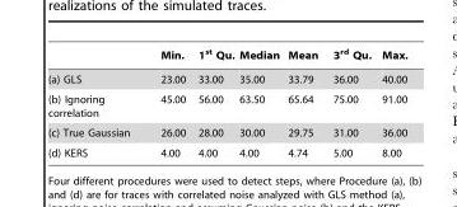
<table><thead><tr><td></td><td>Min.</td><td>1<sup>st</sup> Qu.</td><td>Median</td><td>Mean</td><td>3<sup>rd</sup> Qu.</td><td>Max.</td></tr></thead><tbody><tr><td>(a) GLS</td><td>23.00</td><td>33.00</td><td>35.00</td><td>33.79</td><td>36.00</td><td>40.00</td></tr><tr><td>(b) Ignoring correlation</td><td>45.00</td><td>56.00</td><td>63.50</td><td>65.64</td><td>75.00</td><td>91.00</td></tr><tr><td>(c) True Gaussian</td><td>26.00</td><td>28.00</td><td>30.00</td><td>29.75</td><td>31.00</td><td>36.00</td></tr><tr><td>(d) KERS</td><td>4.00</td><td>4.00</td><td>4.00</td><td>4.74</td><td>5.00</td><td>8.00</td></tr></tbody></table>